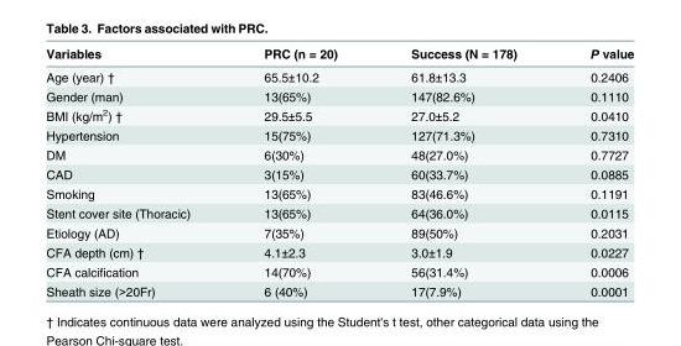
<table><thead><tr><td>Variables</td><td>PRC (n = 20)</td><td>Success (N = 178)</td><td>P value</td></tr></thead><tbody><tr><td>Age (year) †</td><td>65.5±10.2</td><td>61.8±13.3</td><td>0.2406</td></tr><tr><td>Gender (man)</td><td>13(65%)</td><td>147(82.6%)</td><td>0.1110</td></tr><tr><td>BMI (kg/m<sup>2</sup>) †</td><td>29.5±5.5</td><td>27.0±5.2</td><td>0.0410</td></tr><tr><td>Hypertension</td><td>15(75%)</td><td>127(71.3%)</td><td>0.7310</td></tr><tr><td>DM</td><td>6(30%)</td><td>48(27.0%)</td><td>0.7727</td></tr><tr><td>CAD</td><td>3(15%)</td><td>60(33.7%)</td><td>0.0885</td></tr><tr><td>Smoking</td><td>13(65%)</td><td>83(46.6%)</td><td>0.1191</td></tr><tr><td>Stent cover site (Thoracic)</td><td>13(65%)</td><td>64(36.0%)</td><td>0.0115</td></tr><tr><td>Etiology (AD)</td><td>7(35%)</td><td>89(50%)</td><td>0.2031</td></tr><tr><td>CFA depth (cm) †</td><td>4.1±2.3</td><td>3.0±1.9</td><td>0.0227</td></tr><tr><td>CFA calcification</td><td>14(70%)</td><td>56(31.4%)</td><td>0.0006</td></tr><tr><td>Sheath size (&gt;20Fr)</td><td>6 (40%)</td><td>17(7.9%)</td><td>0.0001</td></tr></tbody></table>